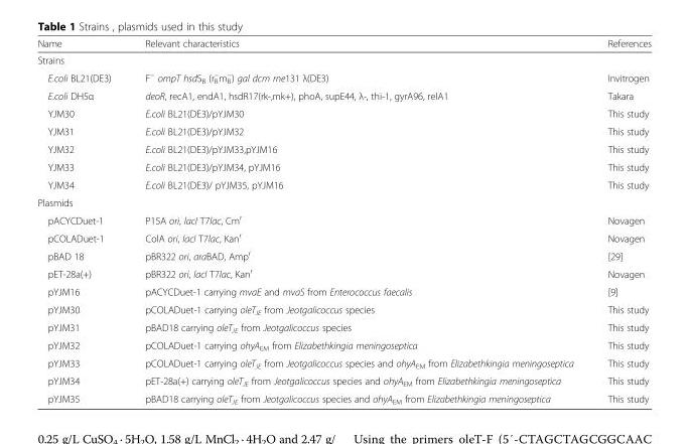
<table><thead><tr><td>Name</td><td>Relevant characteristics</td><td>References</td></tr></thead><tbody><tr><td colspan="3">Strains</td></tr><tr><td>E.coli BL21(DE3)</td><td>F<sup>−</sup> ompT hsdS<sub>B</sub> (r<sub>B</sub> <sup>−</sup>m<sub>B</sub> <sup>−</sup>) gal dcm rne131 λ(DE3)</td><td>Invitrogen</td></tr><tr><td>E.coli DH5α</td><td>deoR, recA1, endA1, hsdR17(rk-,mk+), phoA, supE44, λ-, thi-1, gyrA96, relA1</td><td>Takara</td></tr><tr><td>YJM30</td><td>E.coli BL21(DE3)/pYJM30</td><td>This study</td></tr><tr><td>YJM31</td><td>E.coli BL21(DE3)/pYJM32</td><td>This study</td></tr><tr><td>YJM32</td><td>E.coli BL21(DE3)/pYJM33,pYJM16</td><td>This study</td></tr><tr><td>YJM33</td><td>E.coli BL21(DE3)/pYJM34, pYJM16</td><td>This study</td></tr><tr><td>YJM34</td><td>E.coli BL21(DE3)/ pYJM35, pYJM16</td><td>This study</td></tr><tr><td colspan="3">Plasmids</td></tr><tr><td>pACYCDuet-1</td><td>P15A ori, lacI T7lac, Cm<sup>r</sup></td><td>Novagen</td></tr><tr><td>pCOLADuet-1</td><td>ColA ori, lacI T7lac, Kan<sup>r</sup></td><td>Novagen</td></tr><tr><td>pBAD 18</td><td>pBR322 ori, araBAD, Amp<sup>r</sup></td><td>[29]</td></tr><tr><td>pET-28a(+)</td><td>pBR322 ori, lacI T7lac, Kan<sup>r</sup></td><td>Novagen</td></tr><tr><td>pYJM16</td><td>pACYCDuet-1 carrying mvaE and mvaS from Enterococcus faecalis</td><td>[9]</td></tr><tr><td>pYJM30</td><td>pCOLADuet-1 carrying oleT<sub>JE</sub> from Jeotgalicoccus species</td><td>This study</td></tr><tr><td>pYJM31</td><td>pBAD18 carrying oleT<sub>JE</sub> from Jeotgalicoccus species</td><td>This study</td></tr><tr><td>pYJM32</td><td>pCOLADuet-1 carrying ohyA<sub>EM</sub> from Elizabethkingia meningoseptica</td><td>This study</td></tr><tr><td>pYJM33</td><td>pCOLADuet-1 carrying oleT<sub>JE</sub> from Jeotgalicoccus species and ohyA<sub>EM</sub> from Elizabethkingia meningoseptica</td><td>This study</td></tr><tr><td>pYJM34</td><td>pET-28a(+) carrying oleT<sub>JE</sub> from Jeotgalicoccus species and ohyA<sub>EM</sub> from Elizabethkingia meningoseptica</td><td>This study</td></tr><tr><td>pYJM35</td><td>pBAD18 carrying oleT<sub>JE</sub> from Jeotgalicoccus species and ohyA<sub>EM</sub> from Elizabethkingia meningoseptica</td><td>This study</td></tr></tbody></table>